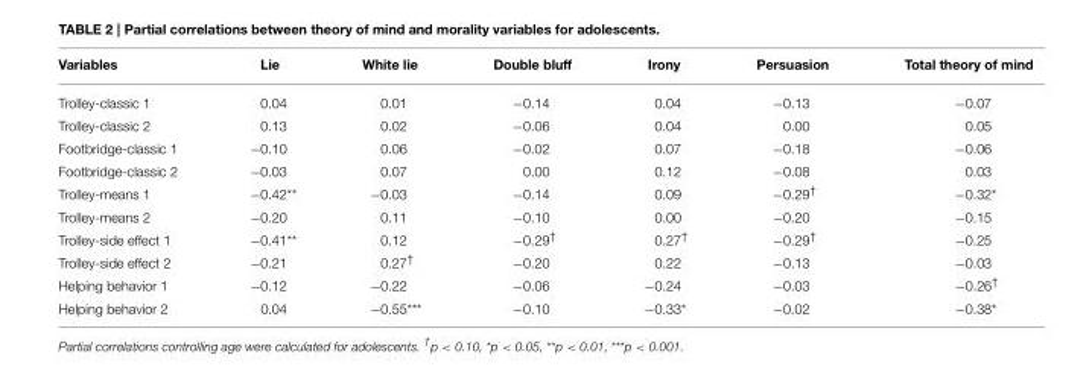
<table><thead><tr><td>Variables</td><td>Lie</td><td>White lie</td><td>Double bluff</td><td>Irony</td><td>Persuasion</td><td>Total theory of mind</td></tr></thead><tbody><tr><td>Trolley-classic 1</td><td>0.04</td><td>0.01</td><td>−0.14</td><td>0.04</td><td>−0.13</td><td>−0.07</td></tr><tr><td>Trolley-classic 2</td><td>0.13</td><td>0.02</td><td>−0.06</td><td>0.04</td><td>0.00</td><td>0.05</td></tr><tr><td>Footbridge-classic 1</td><td>−0.10</td><td>0.06</td><td>−0.02</td><td>0.07</td><td>−0.18</td><td>−0.06</td></tr><tr><td>Footbridge-classic 2</td><td>−0.03</td><td>0.07</td><td>0.00</td><td>0.12</td><td>−0.08</td><td>0.03</td></tr><tr><td>Trolley-means 1</td><td>−0.42**</td><td>−0.03</td><td>−0.14</td><td>0.09</td><td>−0.29<sup>†</sup></td><td>−0.32*</td></tr><tr><td>Trolley-means 2</td><td>−0.20</td><td>0.11</td><td>−0.10</td><td>0.00</td><td>−0.20</td><td>−0.15</td></tr><tr><td>Trolley-side effect 1</td><td>−0.41**</td><td>0.12</td><td>−0.29<sup>†</sup></td><td>0.27<sup>†</sup></td><td>−0.29<sup>†</sup></td><td>−0.25</td></tr><tr><td>Trolley-side effect 2</td><td>−0.21</td><td>0.27<sup>†</sup></td><td>−0.20</td><td>0.22</td><td>−0.13</td><td>−0.03</td></tr><tr><td>Helping behavior 1</td><td>−0.12</td><td>−0.22</td><td>−0.06</td><td>−0.24</td><td>−0.03</td><td>−0.26<sup>†</sup></td></tr><tr><td>Helping behavior 2</td><td>0.04</td><td>−0.55***</td><td>−0.10</td><td>−0.33*</td><td>−0.02</td><td>−0.38*</td></tr></tbody></table>